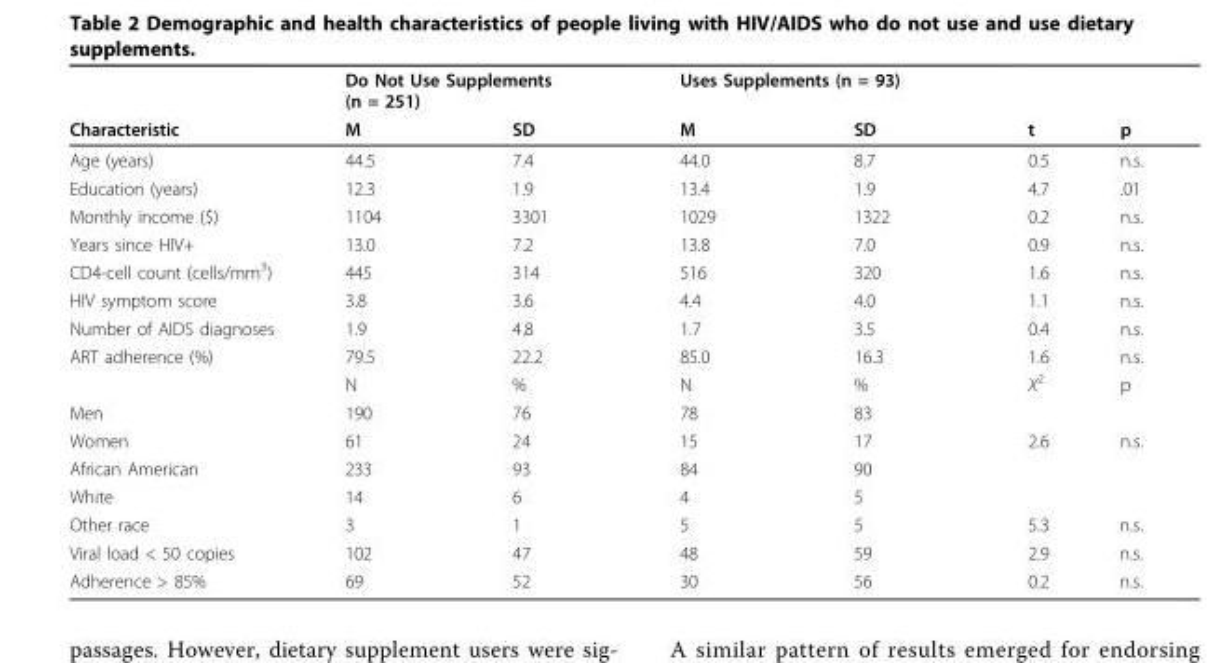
<table><thead><tr><td rowspan="2">Characteristic</td><td colspan="2">Do Not Use Supplements (n = 251)</td><td colspan="2">Uses Supplements (n = 93)</td><td rowspan="2">t</td><td rowspan="2">p</td></tr><tr><td>M</td><td>SD</td><td>M</td><td>SD</td></tr></thead><tbody><tr><td>Age (years)</td><td>44.5</td><td>7.4</td><td>44.0</td><td>8.7</td><td>0.5</td><td>n.s.</td></tr><tr><td>Education (years)</td><td>12.3</td><td>1.9</td><td>13.4</td><td>1.9</td><td>4.7</td><td>.01</td></tr><tr><td>Monthly income ($)</td><td>1104</td><td>3301</td><td>1029</td><td>1322</td><td>0.2</td><td>n.s.</td></tr><tr><td>Years since HIV+</td><td>13.0</td><td>7.2</td><td>13.8</td><td>7.0</td><td>0.9</td><td>n.s.</td></tr><tr><td>CD4-cell count (cells/mm<sup>3</sup>)</td><td>445</td><td>314</td><td>516</td><td>320</td><td>1.6</td><td>n.s.</td></tr><tr><td>HIV symptom score</td><td>3.8</td><td>3.6</td><td>4.4</td><td>4.0</td><td>1.1</td><td>n.s.</td></tr><tr><td>Number of AIDS diagnoses</td><td>1.9</td><td>4.8</td><td>1.7</td><td>3.5</td><td>0.4</td><td>n.s.</td></tr><tr><td rowspan="2">ART adherence (%)</td><td>79.5</td><td>22.2</td><td>85.0</td><td>16.3</td><td>1.6</td><td>n.s.</td></tr><tr><td>N</td><td>%</td><td>N</td><td>%</td><td>X<sup>2</sup></td><td>p</td></tr><tr><td>Men</td><td>190</td><td>76</td><td>78</td><td>83</td><td></td><td></td></tr><tr><td>Women</td><td>61</td><td>24</td><td>15</td><td>17</td><td>2.6</td><td>n.s.</td></tr><tr><td>African American</td><td>233</td><td>93</td><td>84</td><td>90</td><td></td><td></td></tr><tr><td>White</td><td>14</td><td>6</td><td>4</td><td>5</td><td></td><td></td></tr><tr><td>Other race</td><td>3</td><td>1</td><td>5</td><td>5</td><td>5.3</td><td>n.s.</td></tr><tr><td>Viral load &lt; 50 copies</td><td>102</td><td>47</td><td>48</td><td>59</td><td>2.9</td><td>n.s.</td></tr><tr><td>Adherence &gt; 85%</td><td>69</td><td>52</td><td>30</td><td>56</td><td>0.2</td><td>n.s.</td></tr></tbody></table>